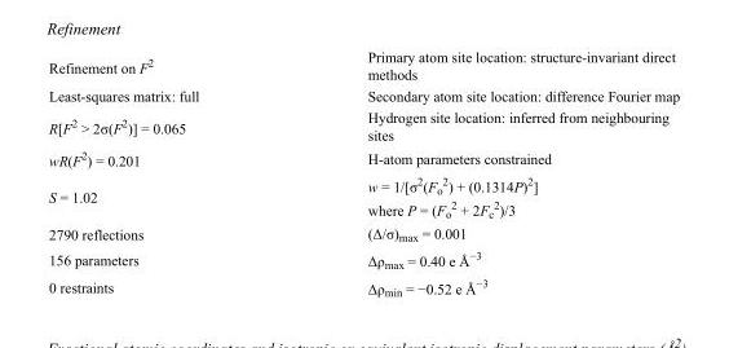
<table><tbody><tr><td>Refinement on F<sup>2</sup></td><td>Primary atom site location: structure-invariant direct methods</td></tr><tr><td>Least-squares matrix: full</td><td>Secondary atom site location: difference Fourier map</td></tr><tr><td>R[F<sup>2</sup> &gt; 2σ(F<sup>2</sup>)] = 0.065</td><td>Hydrogen site location: inferred from neighbouring sites</td></tr><tr><td>wR(F<sup>2</sup>) = 0.201</td><td>H-atom parameters constrained</td></tr><tr><td>S = 1.02</td><td>w = 1/[σ<sup>2</sup>(F<sub>o</sub> <sup>2</sup>) + (0.1314P)<sup>2</sup>] where P = (F<sub>o</sub> <sup>2</sup> + 2F<sub>c</sub> <sup>2</sup>)/3</td></tr><tr><td>2790 reflections</td><td>(Δ/σ)<sub>max</sub> = 0.001</td></tr><tr><td>156 parameters</td><td>Δρ<sub>max</sub> = 0.40 e Å<sup>−3</sup></td></tr><tr><td>0 restraints</td><td>Δρ<sub>min</sub> = −0.52 e Å<sup>−3</sup></td></tr></tbody></table>